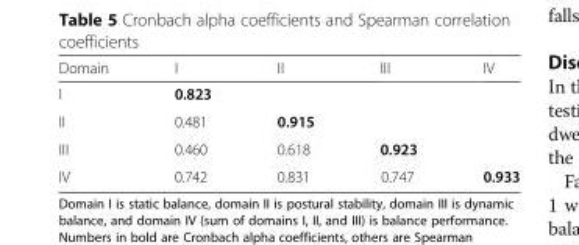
<table><thead><tr><td>Domain</td><td>I</td><td>II</td><td>III</td><td>IV</td></tr></thead><tbody><tr><td>I</td><td>0.823</td><td></td><td></td><td></td></tr><tr><td>II</td><td>0.481</td><td>0.915</td><td></td><td></td></tr><tr><td>III</td><td>0.460</td><td>0.618</td><td>0.923</td><td></td></tr><tr><td>IV</td><td>0.742</td><td>0.831</td><td>0.747</td><td>0.933</td></tr></tbody></table>